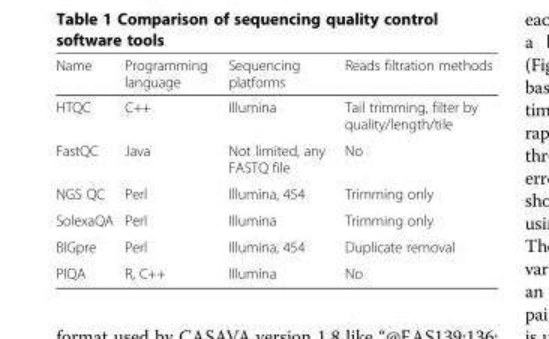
<table><thead><tr><td>Name</td><td>Programming language</td><td>Sequencing platforms</td><td>Reads filtration methods</td></tr></thead><tbody><tr><td>HTQC</td><td>C++</td><td>Illumina</td><td>Tail trimming, filter by quality/length/tile</td></tr><tr><td>FastQC</td><td>Java</td><td>Not limited, any FASTQ file</td><td>No</td></tr><tr><td>NGS QC</td><td>Perl</td><td>Illumina, 454</td><td>Trimming only</td></tr><tr><td>SolexaQA</td><td>Perl</td><td>Illumina</td><td>Trimming only</td></tr><tr><td>BIGpre</td><td>Perl</td><td>Illumina, 454</td><td>Duplicate removal</td></tr><tr><td>PIQA</td><td>R, C++</td><td>Illumina</td><td>No</td></tr></tbody></table>